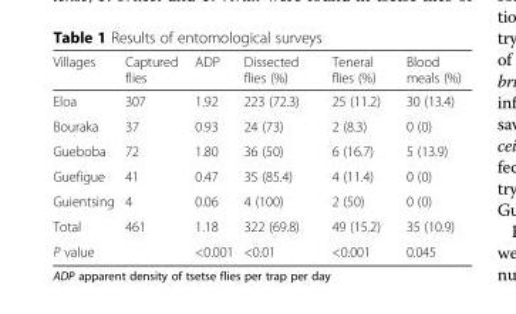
<table><thead><tr><td>Villages</td><td>Captured flies</td><td>ADP</td><td>Dissected flies (%)</td><td>Teneral flies (%)</td><td>Blood meals (%)</td></tr></thead><tbody><tr><td>Eloa</td><td>307</td><td>1.92</td><td>223 (72.3)</td><td>25 (11.2)</td><td>30 (13.4)</td></tr><tr><td>Bouraka</td><td>37</td><td>0.93</td><td>24 (73)</td><td>2 (8.3)</td><td>0 (0)</td></tr><tr><td>Gueboba</td><td>72</td><td>1.80</td><td>36 (50)</td><td>6 (16.7)</td><td>5 (13.9)</td></tr><tr><td>Guefigue</td><td>41</td><td>0.47</td><td>35 (85.4)</td><td>4 (11.4)</td><td>0 (0)</td></tr><tr><td>Guientsing</td><td>4</td><td>0.06</td><td>4 (100)</td><td>2 (50)</td><td>0 (0)</td></tr><tr><td>Total</td><td>461</td><td>1.18</td><td>322 (69.8)</td><td>49 (15.2)</td><td>35 (10.9)</td></tr><tr><td>P value</td><td></td><td>&lt;0.001</td><td>&lt;0.01</td><td>&lt;0.001</td><td>0.045</td></tr></tbody></table>